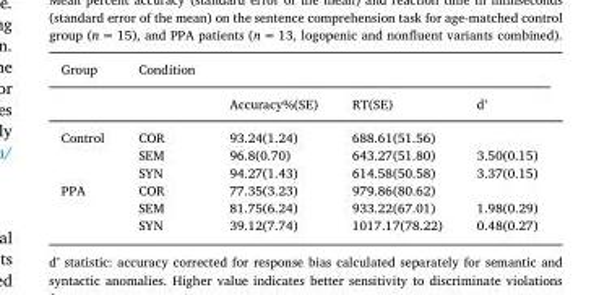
<table><thead><tr><td rowspan="2">Group</td><td rowspan="2">Condition</td><td rowspan="2">Accuracy%(SE)</td><td rowspan="2">RT(SE)</td><td rowspan="2">d’</td></tr><tr></tr></thead><tbody><tr><td rowspan="3">Control</td><td>COR</td><td>93.24(1.24)</td><td>688.61(51.56)</td><td></td></tr><tr><td>SEM</td><td>96.8(0.70)</td><td>643.27(51.80)</td><td>3.50(0.15)</td></tr><tr><td>SYN</td><td>94.27(1.43)</td><td>614.58(50.58)</td><td>3.37(0.15)</td></tr><tr><td rowspan="3">PPA</td><td>COR</td><td>77.35(3.23)</td><td>979.86(80.62)</td><td></td></tr><tr><td>SEM</td><td>81.75(6.24)</td><td>933.22(67.01)</td><td>1.98(0.29)</td></tr><tr><td>SYN</td><td>39.12(7.74)</td><td>1017.17(78.22)</td><td>0.48(0.27)</td></tr></tbody></table>